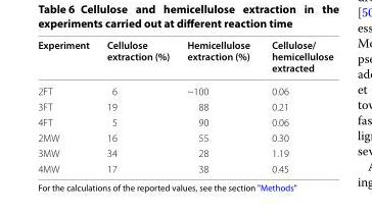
<table><thead><tr><td>Experiment</td><td>Cellulose extraction (%)</td><td>Hemicellulose extraction (%)</td><td>Cellulose/ hemicellulose extracted</td></tr></thead><tbody><tr><td>2FT</td><td>6</td><td>~100</td><td>0.06</td></tr><tr><td>3FT</td><td>19</td><td>88</td><td>0.21</td></tr><tr><td>4FT</td><td>5</td><td>90</td><td>0.06</td></tr><tr><td>2MW</td><td>16</td><td>55</td><td>0.30</td></tr><tr><td>3MW</td><td>34</td><td>28</td><td>1.19</td></tr><tr><td>4MW</td><td>17</td><td>38</td><td>0.45</td></tr></tbody></table>